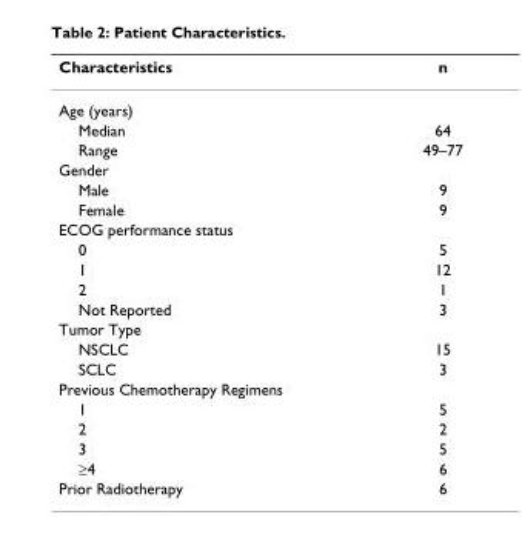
<table><thead><tr><td>Characteristics</td><td>n</td></tr></thead><tbody><tr><td colspan="2">Age (years)</td></tr><tr><td>Median</td><td>64</td></tr><tr><td>Range</td><td>49–77</td></tr><tr><td colspan="2">Gender</td></tr><tr><td>Male</td><td>9</td></tr><tr><td>Female</td><td>9</td></tr><tr><td colspan="2">ECOG performance status</td></tr><tr><td>0</td><td>5</td></tr><tr><td>1</td><td>12</td></tr><tr><td>2</td><td>1</td></tr><tr><td>Not Reported</td><td>3</td></tr><tr><td colspan="2">Tumor Type</td></tr><tr><td>NSCLC</td><td>15</td></tr><tr><td>SCLC</td><td>3</td></tr><tr><td colspan="2">Previous Chemotherapy Regimens</td></tr><tr><td>1</td><td>5</td></tr><tr><td>2</td><td>2</td></tr><tr><td>3</td><td>5</td></tr><tr><td>≥4</td><td>6</td></tr><tr><td>Prior Radiotherapy</td><td>6</td></tr></tbody></table>